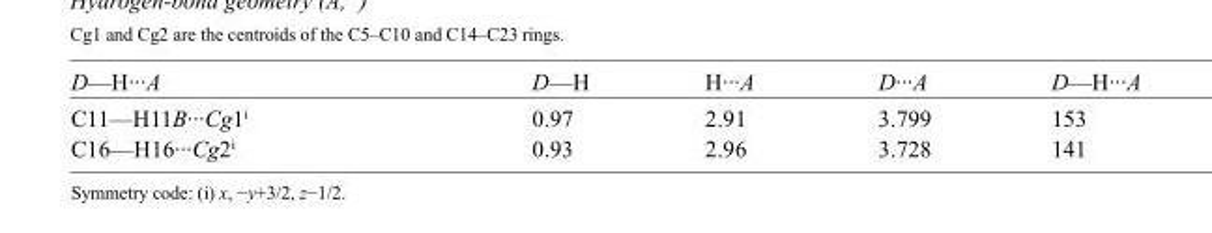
<table><tbody><tr><td>D—H···A</td><td>D—H</td><td>H···A</td><td>D···A</td><td>D—H···A</td></tr><tr><td>C11—H11B···Cg1<sup>i</sup></td><td>0.97</td><td>2.91</td><td>3.799</td><td>153</td></tr><tr><td>C16—H16···Cg2<sup>i</sup></td><td>0.93</td><td>2.96</td><td>3.728</td><td>141</td></tr></tbody></table>